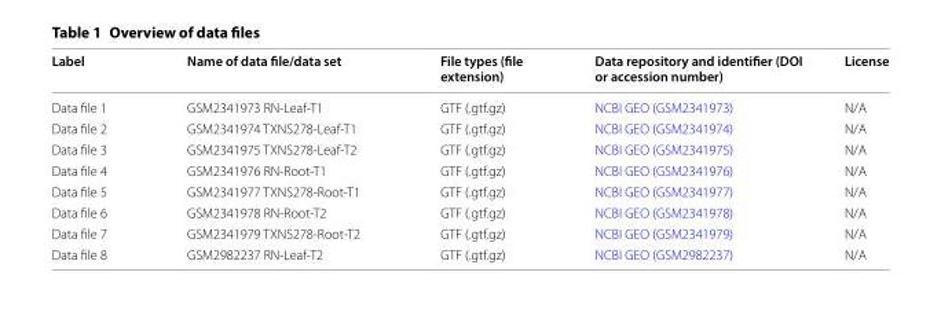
<table><thead><tr><td>Label</td><td>Name of data file/data set</td><td>File types (file extension)</td><td>Data repository and identifier (DOI or accession number)</td><td>License</td></tr></thead><tbody><tr><td>Data file 1</td><td>GSM2341973 RN-Leaf-T1</td><td>GTF (.gtf.gz)</td><td>NCBI GEO (GSM23 41973 )</td><td>N/A</td></tr><tr><td>Data file 2</td><td>GSM2341974 TXNS278-Leaf-T1</td><td>GTF (.gtf.gz)</td><td>NCBI GEO (GSM23 41974 )</td><td>N/A</td></tr><tr><td>Data file 3</td><td>GSM2341975 TXNS278-Leaf-T2</td><td>GTF (.gtf.gz)</td><td>NCBI GEO (GSM23 41975 )</td><td>N/A</td></tr><tr><td>Data file 4</td><td>GSM2341976 RN-Root-T1</td><td>GTF (.gtf.gz)</td><td>NCBI GEO (GSM23 41976 )</td><td>N/A</td></tr><tr><td>Data file 5</td><td>GSM2341977 TXNS278-Root-T1</td><td>GTF (.gtf.gz)</td><td>NCBI GEO (GSM23 41977 )</td><td>N/A</td></tr><tr><td>Data file 6</td><td>GSM2341978 RN-Root-T2</td><td>GTF (.gtf.gz)</td><td>NCBI GEO (GSM23 41978 )</td><td>N/A</td></tr><tr><td>Data file 7</td><td>GSM2341979 TXNS278-Root-T2</td><td>GTF (.gtf.gz)</td><td>NCBI GEO (GSM23 41979 )</td><td>N/A</td></tr><tr><td>Data file 8</td><td>GSM2982237 RN-Leaf-T2</td><td>GTF (.gtf.gz)</td><td>NCBI GEO (GSM29 82237 )</td><td>N/A</td></tr></tbody></table>